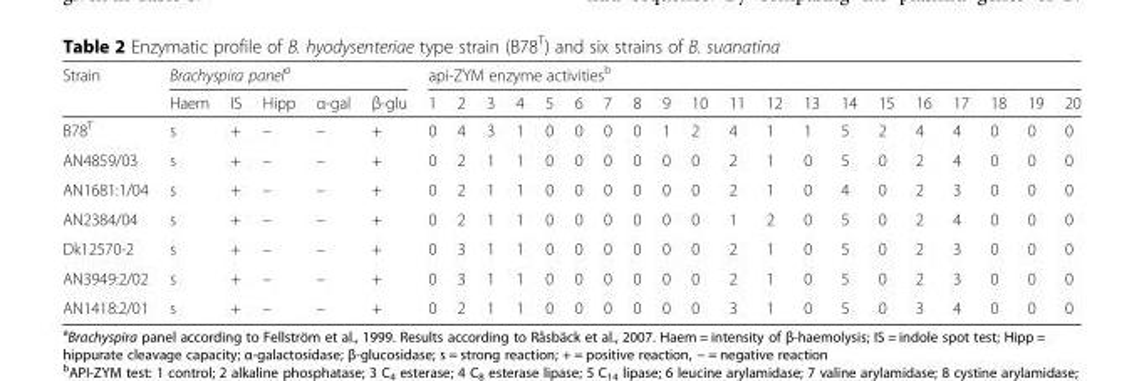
<table><thead><tr><td rowspan="2">Strain</td><td colspan="5">Brachyspira panel<sup>a</sup></td><td colspan="20">api-ZYM enzyme activities<sup>b</sup></td></tr><tr><td>Haem</td><td>IS</td><td>Hipp</td><td>α-gal</td><td>β-glu</td><td>1</td><td>2</td><td>3</td><td>4</td><td>5</td><td>6</td><td>7</td><td>8</td><td>9</td><td>10</td><td>11</td><td>12</td><td>13</td><td>14</td><td>15</td><td>16</td><td>17</td><td>18</td><td>19</td><td>20</td></tr></thead><tbody><tr><td>B78<sup>T</sup></td><td>s</td><td>+</td><td>–</td><td>–</td><td>+</td><td>0</td><td>4</td><td>3</td><td>1</td><td>0</td><td>0</td><td>0</td><td>0</td><td>1</td><td>2</td><td>4</td><td>1</td><td>1</td><td>5</td><td>2</td><td>4</td><td>4</td><td>0</td><td>0</td><td>0</td></tr><tr><td>AN4859/03</td><td>s</td><td>+</td><td>–</td><td>–</td><td>+</td><td>0</td><td>2</td><td>1</td><td>1</td><td>0</td><td>0</td><td>0</td><td>0</td><td>0</td><td>0</td><td>2</td><td>1</td><td>0</td><td>5</td><td>0</td><td>2</td><td>4</td><td>0</td><td>0</td><td>0</td></tr><tr><td>AN1681:1/04</td><td>s</td><td>+</td><td>–</td><td>–</td><td>+</td><td>0</td><td>2</td><td>1</td><td>1</td><td>0</td><td>0</td><td>0</td><td>0</td><td>0</td><td>0</td><td>2</td><td>1</td><td>0</td><td>4</td><td>0</td><td>2</td><td>3</td><td>0</td><td>0</td><td>0</td></tr><tr><td>AN2384/04</td><td>s</td><td>+</td><td>–</td><td>–</td><td>+</td><td>0</td><td>2</td><td>1</td><td>1</td><td>0</td><td>0</td><td>0</td><td>0</td><td>0</td><td>0</td><td>1</td><td>2</td><td>0</td><td>5</td><td>0</td><td>2</td><td>4</td><td>0</td><td>0</td><td>0</td></tr><tr><td>Dk12570-2</td><td>s</td><td>+</td><td>–</td><td>–</td><td>+</td><td>0</td><td>3</td><td>1</td><td>1</td><td>0</td><td>0</td><td>0</td><td>0</td><td>0</td><td>0</td><td>2</td><td>1</td><td>0</td><td>5</td><td>0</td><td>2</td><td>3</td><td>0</td><td>0</td><td>0</td></tr><tr><td>AN3949:2/02</td><td>s</td><td>+</td><td>–</td><td>–</td><td>+</td><td>0</td><td>3</td><td>1</td><td>1</td><td>0</td><td>0</td><td>0</td><td>0</td><td>0</td><td>0</td><td>2</td><td>1</td><td>0</td><td>5</td><td>0</td><td>2</td><td>3</td><td>0</td><td>0</td><td>0</td></tr><tr><td>AN1418:2/01</td><td>s</td><td>+</td><td>–</td><td>–</td><td>+</td><td>0</td><td>2</td><td>1</td><td>1</td><td>0</td><td>0</td><td>0</td><td>0</td><td>0</td><td>0</td><td>3</td><td>1</td><td>0</td><td>5</td><td>0</td><td>3</td><td>4</td><td>0</td><td>0</td><td>0</td></tr></tbody></table>